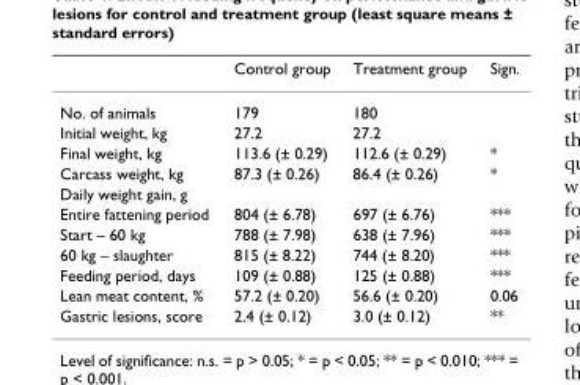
<table><thead><tr><td></td><td>Control group</td><td>Treatment group</td><td>Sign.</td></tr></thead><tbody><tr><td>No. of animals</td><td>179</td><td>180</td><td></td></tr><tr><td>Initial weight, kg</td><td>27.2</td><td>27.2</td><td></td></tr><tr><td>Final weight, kg</td><td>113.6 (± 0.29)</td><td>112.6 (± 0.29)</td><td>*</td></tr><tr><td>Carcass weight, kg</td><td>87.3 (± 0.26)</td><td>86.4 (± 0.26)</td><td>*</td></tr><tr><td colspan="4">Daily weight gain, g</td></tr><tr><td>Entire fattening period</td><td>804 (± 6.78)</td><td>697 (± 6.76)</td><td>***</td></tr><tr><td>Start – 60 kg</td><td>788 (± 7.98)</td><td>638 (± 7.96)</td><td>***</td></tr><tr><td>60 kg – slaughter</td><td>815 (± 8.22)</td><td>744 (± 8.20)</td><td>***</td></tr><tr><td>Feeding period, days</td><td>109 (± 0.88)</td><td>125 (± 0.88)</td><td>***</td></tr><tr><td>Lean meat content, %</td><td>57.2 (± 0.20)</td><td>56.6 (± 0.20)</td><td>0.06</td></tr><tr><td>Gastric lesions, score</td><td>2.4 (± 0.12)</td><td>3.0 (± 0.12)</td><td>**</td></tr></tbody></table>